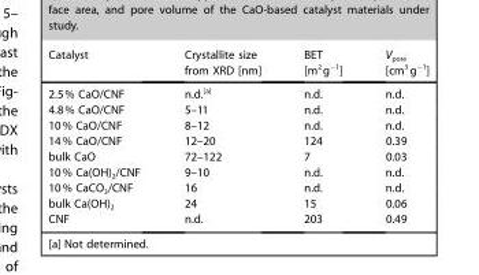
<table><thead><tr><td>Catalyst</td><td>Crystallite size from XRD [nm]</td><td>BET [m<sup>2</sup>g<sup>−1</sup>]</td><td>V<sub>pore</sub> [cm<sup>3</sup>g<sup>−1</sup>]</td></tr></thead><tbody><tr><td>2.5% CaO/CNF</td><td>n.d.[a]</td><td>n.d.</td><td>n.d.</td></tr><tr><td>4.8% CaO/CNF</td><td>5–11</td><td>n.d.</td><td>n.d.</td></tr><tr><td>10% CaO/CNF</td><td>8–12</td><td>n.d.</td><td>n.d.</td></tr><tr><td>14% CaO/CNF</td><td>12–20</td><td>124</td><td>0.39</td></tr><tr><td>bulk CaO</td><td>72–122</td><td>7</td><td>0.03</td></tr><tr><td>10% Ca(OH)<sub>2</sub>/CNF</td><td>9–10</td><td>n.d.</td><td>n.d.</td></tr><tr><td>10% CaCO<sub>3</sub>/CNF</td><td>16</td><td>n.d.</td><td>n.d.</td></tr><tr><td>bulk Ca(OH)<sub>2</sub></td><td>24</td><td>15</td><td>0.06</td></tr><tr><td>CNF</td><td>n.d.</td><td>203</td><td>0.49</td></tr></tbody></table>